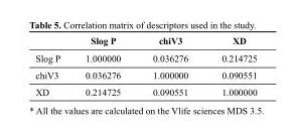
<table><thead><tr><td></td><td>Slog P</td><td>chiV3</td><td>XD</td></tr></thead><tbody><tr><td>Slog P</td><td>1.000000</td><td>0.036276</td><td>0.214725</td></tr><tr><td>chiV3</td><td>0.036276</td><td>1.000000</td><td>0.090551</td></tr><tr><td>XD</td><td>0.214725</td><td>0.090551</td><td>1.000000</td></tr></tbody></table>